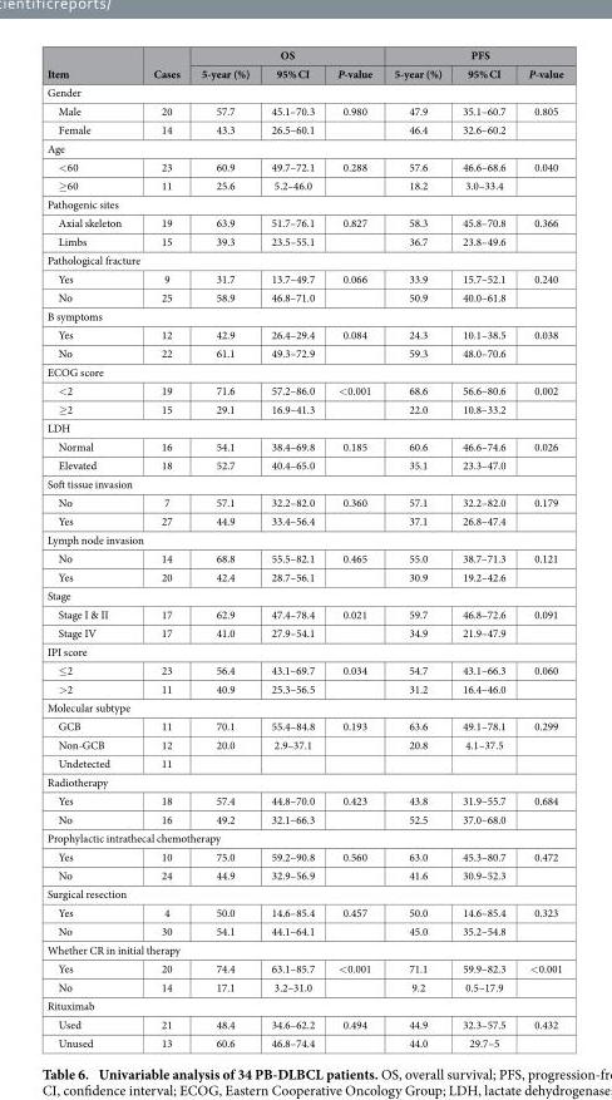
<table><thead><tr><td rowspan="2">Item</td><td rowspan="2">Cases</td><td colspan="3">OS</td><td colspan="3">PFS</td></tr><tr><td>5-year (%)</td><td>95% CI</td><td>P-value</td><td>5-year (%)</td><td>95% CI</td><td>P-value</td></tr></thead><tbody><tr><td colspan="8">Gender</td></tr><tr><td>Male</td><td>20</td><td>57.7</td><td>45.1–70.3</td><td>0.980</td><td>47.9</td><td>35.1–60.7</td><td>0.805</td></tr><tr><td>Female</td><td>14</td><td>43.3</td><td>26.5–60.1</td><td></td><td>46.4</td><td>32.6–60.2</td><td></td></tr><tr><td colspan="8">Age</td></tr><tr><td>&lt; 60</td><td>23</td><td>60.9</td><td>49.7–72.1</td><td>0.288</td><td>57.6</td><td>46.6–68.6</td><td>0.040</td></tr><tr><td>≥ 60</td><td>11</td><td>25.6</td><td>5.2–46.0</td><td></td><td>18.2</td><td>3.0–33.4</td><td></td></tr><tr><td colspan="8">Pathogenic sites</td></tr><tr><td>Axial skeleton</td><td>19</td><td>63.9</td><td>51.7–76.1</td><td>0.827</td><td>58.3</td><td>45.8–70.8</td><td>0.366</td></tr><tr><td>Limbs</td><td>15</td><td>39.3</td><td>23.5–55.1</td><td></td><td>36.7</td><td>23.8–49.6</td><td></td></tr><tr><td colspan="8">Pathological fracture</td></tr><tr><td>Yes</td><td>9</td><td>31.7</td><td>13.7–49.7</td><td>0.066</td><td>33.9</td><td>15.7–52.1</td><td>0.240</td></tr><tr><td>No</td><td>25</td><td>58.9</td><td>46.8–71.0</td><td></td><td>50.9</td><td>40.0–61.8</td><td></td></tr><tr><td colspan="8">B symptoms</td></tr><tr><td>Yes</td><td>12</td><td>42.9</td><td>26.4–29.4</td><td>0.084</td><td>24.3</td><td>10.1–38.5</td><td>0.038</td></tr><tr><td>No</td><td>22</td><td>61.1</td><td>49.3–72.9</td><td></td><td>59.3</td><td>48.0–70.6</td><td></td></tr><tr><td colspan="8">ECOG score</td></tr><tr><td>&lt; 2</td><td>19</td><td>71.6</td><td>57.2–86.0</td><td>&lt; 0.001</td><td>68.6</td><td>56.6–80.6</td><td>0.002</td></tr><tr><td>≥ 2</td><td>15</td><td>29.1</td><td>16.9–41.3</td><td></td><td>22.0</td><td>10.8–33.2</td><td></td></tr><tr><td colspan="8">LDH</td></tr><tr><td>Normal</td><td>16</td><td>54.1</td><td>38.4–69.8</td><td>0.185</td><td>60.6</td><td>46.6–74.6</td><td>0.026</td></tr><tr><td>Elevated</td><td>18</td><td>52.7</td><td>40.4–65.0</td><td></td><td>35.1</td><td>23.3–47.0</td><td></td></tr><tr><td colspan="8">Soft tissue invasion</td></tr><tr><td>No</td><td>7</td><td>57.1</td><td>32.2–82.0</td><td>0.360</td><td>57.1</td><td>32.2–82.0</td><td>0.179</td></tr><tr><td>Yes</td><td>27</td><td>44.9</td><td>33.4–56.4</td><td></td><td>37.1</td><td>26.8–47.4</td><td></td></tr><tr><td colspan="8">Lymph node invasion</td></tr><tr><td>No</td><td>14</td><td>68.8</td><td>55.5–82.1</td><td>0.465</td><td>55.0</td><td>38.7–71.3</td><td>0.121</td></tr><tr><td>Yes</td><td>20</td><td>42.4</td><td>28.7–56.1</td><td></td><td>30.9</td><td>19.2–42.6</td><td></td></tr><tr><td colspan="8">Stage</td></tr><tr><td>Stage I &amp; II</td><td>17</td><td>62.9</td><td>47.4–78.4</td><td>0.021</td><td>59.7</td><td>46.8–72.6</td><td>0.091</td></tr><tr><td>Stage IV</td><td>17</td><td>41.0</td><td>27.9–54.1</td><td></td><td>34.9</td><td>21.9–47.9</td><td></td></tr><tr><td colspan="8">IPI score</td></tr><tr><td>≤ 2</td><td>23</td><td>56.4</td><td>43.1–69.7</td><td>0.034</td><td>54.7</td><td>43.1–66.3</td><td>0.060</td></tr><tr><td>&gt; 2</td><td>11</td><td>40.9</td><td>25.3–56.5</td><td></td><td>31.2</td><td>16.4–46.0</td><td></td></tr><tr><td colspan="8">Molecular subtype</td></tr><tr><td>GCB</td><td>11</td><td>70.1</td><td>55.4–84.8</td><td>0.193</td><td>63.6</td><td>49.1–78.1</td><td>0.299</td></tr><tr><td>Non-GCB</td><td>12</td><td>20.0</td><td>2.9–37.1</td><td></td><td>20.8</td><td>4.1–37.5</td><td></td></tr><tr><td>Undetected</td><td>11</td><td></td><td></td><td></td><td></td><td></td><td></td></tr><tr><td colspan="8">Radiotherapy</td></tr><tr><td>Yes</td><td>18</td><td>57.4</td><td>44.8–70.0</td><td>0.423</td><td>43.8</td><td>31.9–55.7</td><td>0.684</td></tr><tr><td>No</td><td>16</td><td>49.2</td><td>32.1–66.3</td><td></td><td>52.5</td><td>37.0–68.0</td><td></td></tr><tr><td colspan="8">Prophylactic intrathecal chemotherapy</td></tr><tr><td>Yes</td><td>10</td><td>75.0</td><td>59.2–90.8</td><td>0.560</td><td>63.0</td><td>45.3–80.7</td><td>0.472</td></tr><tr><td>No</td><td>24</td><td>44.9</td><td>32.9–56.9</td><td></td><td>41.6</td><td>30.9–52.3</td><td></td></tr><tr><td colspan="8">Surgical resection</td></tr><tr><td>Yes</td><td>4</td><td>50.0</td><td>14.6–85.4</td><td>0.457</td><td>50.0</td><td>14.6–85.4</td><td>0.323</td></tr><tr><td>No</td><td>30</td><td>54.1</td><td>44.1–64.1</td><td></td><td>45.0</td><td>35.2–54.8</td><td></td></tr><tr><td colspan="8">Whether CR in initial therapy</td></tr><tr><td>Yes</td><td>20</td><td>74.4</td><td>63.1–85.7</td><td>&lt; 0.001</td><td>71.1</td><td>59.9–82.3</td><td>&lt; 0.001</td></tr><tr><td>No</td><td>14</td><td>17.1</td><td>3.2–31.0</td><td></td><td>9.2</td><td>0.5–17.9</td><td></td></tr><tr><td colspan="8">Rituximab</td></tr><tr><td>Used</td><td>21</td><td>48.4</td><td>34.6–62.2</td><td>0.494</td><td>44.9</td><td>32.3–57.5</td><td>0.432</td></tr><tr><td>Unused</td><td>13</td><td>60.6</td><td>46.8–74.4</td><td></td><td>44.0</td><td>29.7–5</td><td></td></tr></tbody></table>